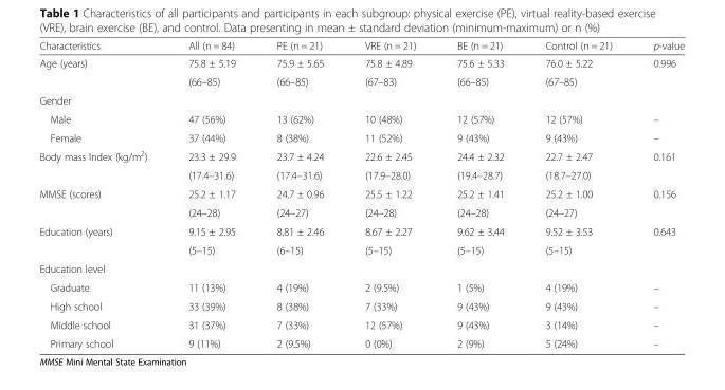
<table><thead><tr><td>Characteristics</td><td>All (n = 84)</td><td>PE (n = 21)</td><td>VRE (n = 21)</td><td>BE (n = 21)</td><td>Control (n = 21)</td><td>p-value</td></tr></thead><tbody><tr><td rowspan="2">Age (years)</td><td>75.8 ± 5.19</td><td>75.9 ± 5.65</td><td>75.8 ± 4.89</td><td>75.6 ± 5.33</td><td>76.0 ± 5.22</td><td>0.996</td></tr><tr><td>(66–85)</td><td>(66–85)</td><td>(67–83)</td><td>(66–85)</td><td>(67–85)</td><td></td></tr><tr><td colspan="7">Gender</td></tr><tr><td>Male</td><td>47 (56%)</td><td>13 (62%)</td><td>10 (48%)</td><td>12 (57%)</td><td>12 (57%)</td><td>–</td></tr><tr><td>Female</td><td>37 (44%)</td><td>8 (38%)</td><td>11 (52%)</td><td>9 (43%)</td><td>9 (43%)</td><td>–</td></tr><tr><td rowspan="2">Body mass Index (kg/m<sup>2</sup>)</td><td>23.3 ± 29.9</td><td>23.7 ± 4.24</td><td>22.6 ± 2.45</td><td>24.4 ± 2.32</td><td>22.7 ± 2.47</td><td>0.161</td></tr><tr><td>(17.4–31.6)</td><td>(17.4–31.6)</td><td>(17.9–28.0)</td><td>(19.4–28.7)</td><td>(18.7–27.0)</td><td></td></tr><tr><td rowspan="2">MMSE (scores)</td><td>25.2 ± 1.17</td><td>24.7 ± 0.96</td><td>25.5 ± 1.22</td><td>25.2 ± 1.41</td><td>25.2 ± 1.00</td><td>0.156</td></tr><tr><td>(24–28)</td><td>(24–27)</td><td>(24–28)</td><td>(24–28)</td><td>(24–27)</td><td></td></tr><tr><td rowspan="2">Education (years)</td><td>9.15 ± 2.95</td><td>8.81 ± 2.46</td><td>8.67 ± 2.27</td><td>9.62 ± 3.44</td><td>9.52 ± 3.53</td><td>0.643</td></tr><tr><td>(5–15)</td><td>(6–15)</td><td>(5–15)</td><td>(5–15)</td><td>(5–15)</td><td></td></tr><tr><td colspan="7">Education level</td></tr><tr><td>Graduate</td><td>11 (13%)</td><td>4 (19%)</td><td>2 (9.5%)</td><td>1 (5%)</td><td>4 (19%)</td><td>–</td></tr><tr><td>High school</td><td>33 (39%)</td><td>8 (38%)</td><td>7 (33%)</td><td>9 (43%)</td><td>9 (43%)</td><td>–</td></tr><tr><td>Middle school</td><td>31 (37%)</td><td>7 (33%)</td><td>12 (57%)</td><td>9 (43%)</td><td>3 (14%)</td><td>–</td></tr><tr><td>Primary school</td><td>9 (11%)</td><td>2 (9.5%)</td><td>0 (0%)</td><td>2 (9%)</td><td>5 (24%)</td><td>–</td></tr></tbody></table>